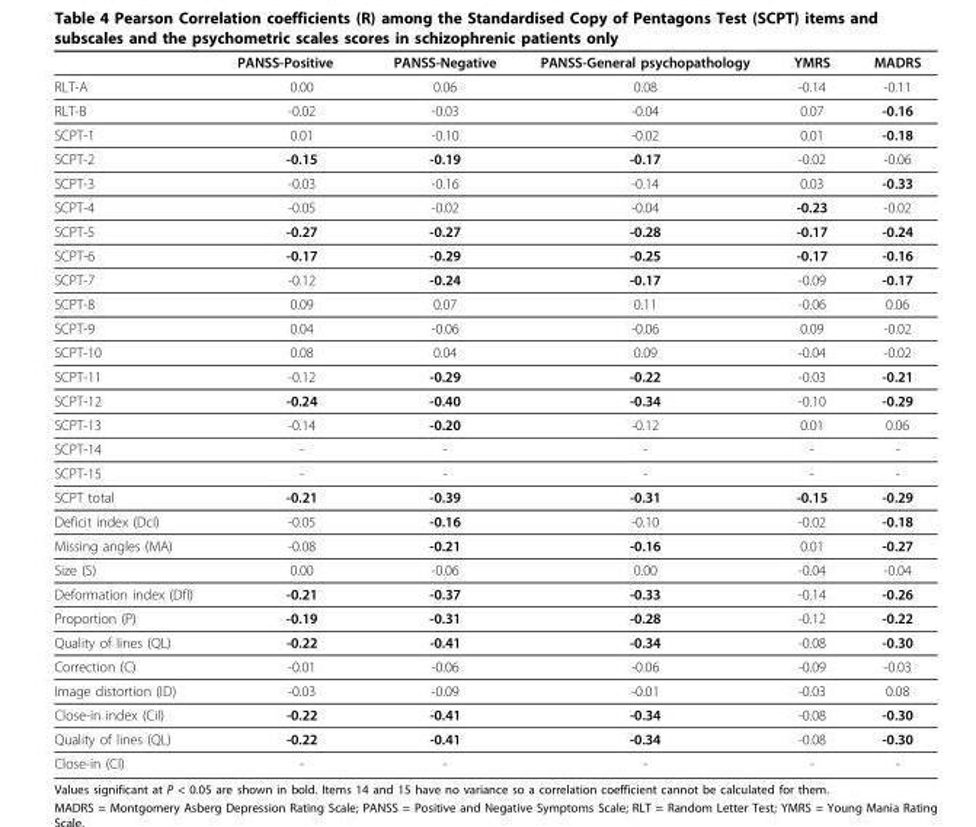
<table><thead><tr><td></td><td>PANSS-Positive</td><td>PANSS-Negative</td><td>PANSS-General psychopathology</td><td>YMRS</td><td>MADRS</td></tr></thead><tbody><tr><td>RLT-A</td><td>0.00</td><td>0.06</td><td>0.08</td><td>-0.14</td><td>-0.11</td></tr><tr><td>RLT-B</td><td>-0.02</td><td>-0.03</td><td>-0.04</td><td>0.07</td><td>-0.16</td></tr><tr><td>SCPT-1</td><td>0.01</td><td>-0.10</td><td>-0.02</td><td>0.01</td><td>-0.18</td></tr><tr><td>SCPT-2</td><td>-0.15</td><td>-0.19</td><td>-0.17</td><td>-0.02</td><td>-0.06</td></tr><tr><td>SCPT-3</td><td>-0.03</td><td>-0.16</td><td>-0.14</td><td>0.03</td><td>-0.33</td></tr><tr><td>SCPT-4</td><td>-0.05</td><td>-0.02</td><td>-0.04</td><td>-0.23</td><td>-0.02</td></tr><tr><td>SCPT-5</td><td>-0.27</td><td>-0.27</td><td>-0.28</td><td>-0.17</td><td>-0.24</td></tr><tr><td>SCPT-6</td><td>-0.17</td><td>-0.29</td><td>-0.25</td><td>-0.17</td><td>-0.16</td></tr><tr><td>SCPT-7</td><td>-0.12</td><td>-0.24</td><td>-0.17</td><td>-0.09</td><td>-0.17</td></tr><tr><td>SCPT-8</td><td>0.09</td><td>0.07</td><td>0.11</td><td>-0.06</td><td>0.06</td></tr><tr><td>SCPT-9</td><td>0.04</td><td>-0.06</td><td>-0.06</td><td>0.09</td><td>-0.02</td></tr><tr><td>SCPT-10</td><td>0.08</td><td>0.04</td><td>0.09</td><td>-0.04</td><td>-0.02</td></tr><tr><td>SCPT-11</td><td>-0.12</td><td>-0.29</td><td>-0.22</td><td>-0.03</td><td>-0.21</td></tr><tr><td>SCPT-12</td><td>-0.24</td><td>-0.40</td><td>-0.34</td><td>-0.10</td><td>-0.29</td></tr><tr><td>SCPT-13</td><td>-0.14</td><td>-0.20</td><td>-0.12</td><td>0.01</td><td>0.06</td></tr><tr><td>SCPT-14</td><td>-</td><td>-</td><td>-</td><td>-</td><td>-</td></tr><tr><td>SCPT-15</td><td>-</td><td>-</td><td>-</td><td>-</td><td>-</td></tr><tr><td>SCPT total</td><td>-0.21</td><td>-0.39</td><td>-0.31</td><td>-0.15</td><td>-0.29</td></tr><tr><td>Deficit index (DcI)</td><td>-0.05</td><td>-0.16</td><td>-0.10</td><td>-0.02</td><td>-0.18</td></tr><tr><td>Missing angles (MA)</td><td>-0.08</td><td>-0.21</td><td>-0.16</td><td>0.01</td><td>-0.27</td></tr><tr><td>Size (S)</td><td>0.00</td><td>-0.06</td><td>0.00</td><td>-0.04</td><td>-0.04</td></tr><tr><td>Deformation index (DfI)</td><td>-0.21</td><td>-0.37</td><td>-0.33</td><td>-0.14</td><td>-0.26</td></tr><tr><td>Proportion (P)</td><td>-0.19</td><td>-0.31</td><td>-0.28</td><td>-0.12</td><td>-0.22</td></tr><tr><td>Quality of lines (QL)</td><td>-0.22</td><td>-0.41</td><td>-0.34</td><td>-0.08</td><td>-0.30</td></tr><tr><td>Correction (C)</td><td>-0.01</td><td>-0.06</td><td>-0.06</td><td>-0.09</td><td>-0.03</td></tr><tr><td>Image distortion (ID)</td><td>-0.03</td><td>-0.09</td><td>-0.01</td><td>-0.03</td><td>0.08</td></tr><tr><td>Close-in index (CiI)</td><td>-0.22</td><td>-0.41</td><td>-0.34</td><td>-0.08</td><td>-0.30</td></tr><tr><td>Quality of lines (QL)</td><td>-0.22</td><td>-0.41</td><td>-0.34</td><td>-0.08</td><td>-0.30</td></tr><tr><td>Close-in (CI)</td><td>-</td><td>-</td><td>-</td><td>-</td><td>-</td></tr></tbody></table>